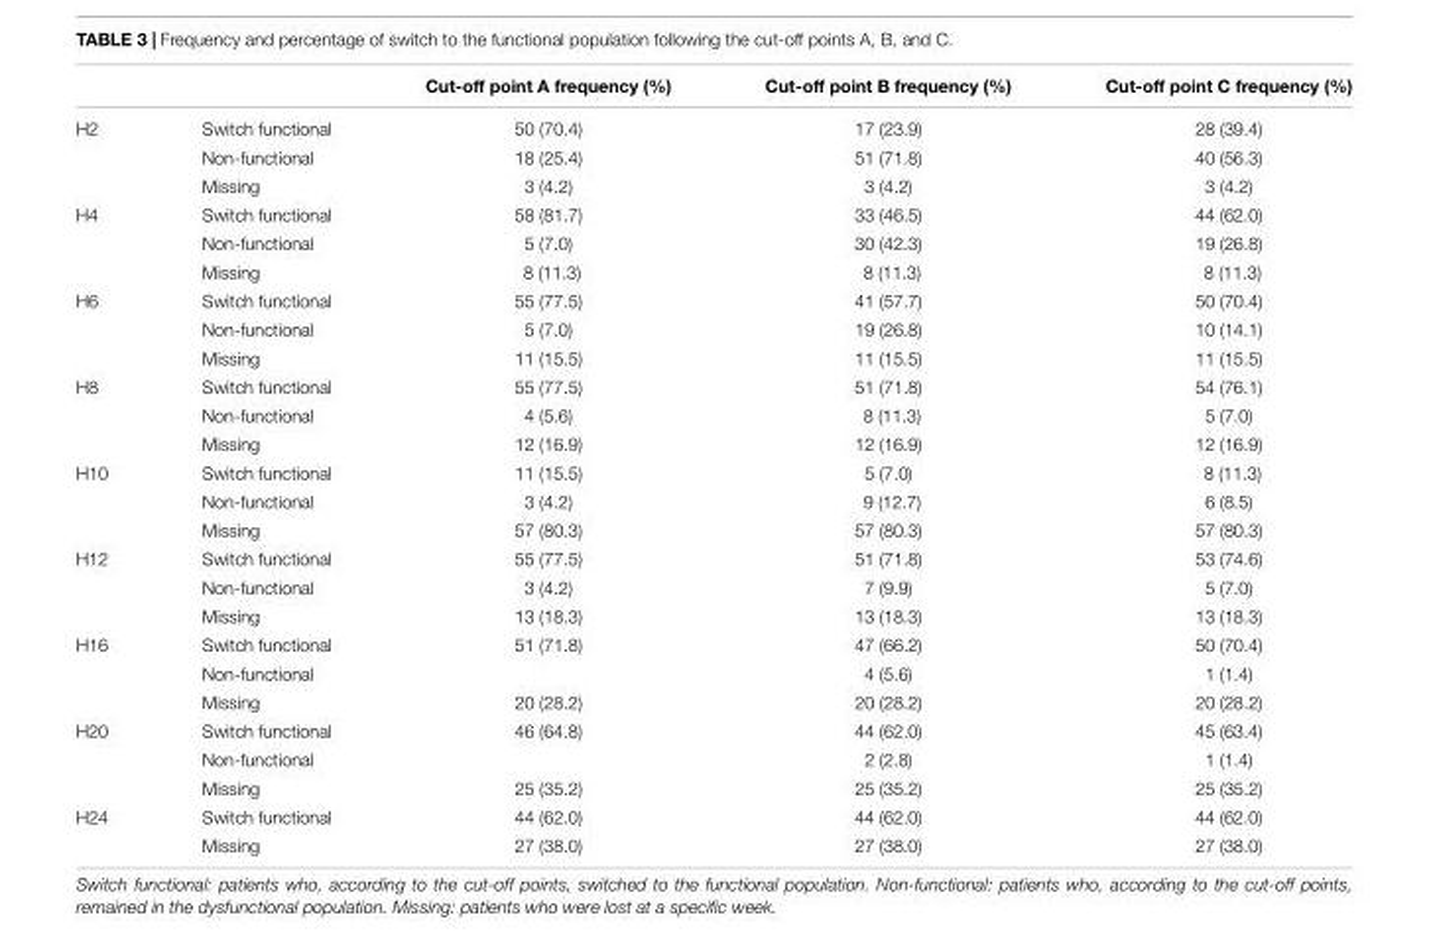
<table><thead><tr><td></td><td></td><td>Cut-off point A frequency (%)</td><td>Cut-off point B frequency (%)</td><td>Cut-off point C frequency (%)</td></tr></thead><tbody><tr><td rowspan="3">H2</td><td>Switch functional</td><td>50 (70.4)</td><td>17 (23.9)</td><td>28 (39.4)</td></tr><tr><td>Non-functional</td><td>18 (25.4)</td><td>51 (71.8)</td><td>40 (56.3)</td></tr><tr><td>Missing</td><td>3 (4.2)</td><td>3 (4.2)</td><td>3 (4.2)</td></tr><tr><td rowspan="3">H4</td><td>Switch functional</td><td>58 (81.7)</td><td>33 (46.5)</td><td>44 (62.0)</td></tr><tr><td>Non-functional</td><td>5 (7.0)</td><td>30 (42.3)</td><td>19 (26.8)</td></tr><tr><td>Missing</td><td>8 (11.3)</td><td>8 (11.3)</td><td>8 (11.3)</td></tr><tr><td rowspan="3">H6</td><td>Switch functional</td><td>55 (77.5)</td><td>41 (57.7)</td><td>50 (70.4)</td></tr><tr><td>Non-functional</td><td>5 (7.0)</td><td>19 (26.8)</td><td>10 (14.1)</td></tr><tr><td>Missing</td><td>11 (15.5)</td><td>11 (15.5)</td><td>11 (15.5)</td></tr><tr><td rowspan="3">H8</td><td>Switch functional</td><td>55 (77.5)</td><td>51 (71.8)</td><td>54 (76.1)</td></tr><tr><td>Non-functional</td><td>4 (5.6)</td><td>8 (11.3)</td><td>5 (7.0)</td></tr><tr><td>Missing</td><td>12 (16.9)</td><td>12 (16.9)</td><td>12 (16.9)</td></tr><tr><td rowspan="3">H10</td><td>Switch functional</td><td>11 (15.5)</td><td>5 (7.0)</td><td>8 (11.3)</td></tr><tr><td>Non-functional</td><td>3 (4.2)</td><td>9 (12.7)</td><td>6 (8.5)</td></tr><tr><td>Missing</td><td>57 (80.3)</td><td>57 (80.3)</td><td>57 (80.3)</td></tr><tr><td rowspan="3">H12</td><td>Switch functional</td><td>55 (77.5)</td><td>51 (71.8)</td><td>53 (74.6)</td></tr><tr><td>Non-functional</td><td>3 (4.2)</td><td>7 (9.9)</td><td>5 (7.0)</td></tr><tr><td>Missing</td><td>13 (18.3)</td><td>13 (18.3)</td><td>13 (18.3)</td></tr><tr><td rowspan="3">H16</td><td>Switch functional</td><td>51 (71.8)</td><td>47 (66.2)</td><td>50 (70.4)</td></tr><tr><td>Non-functional</td><td></td><td>4 (5.6)</td><td>1 (1.4)</td></tr><tr><td>Missing</td><td>20 (28.2)</td><td>20 (28.2)</td><td>20 (28.2)</td></tr><tr><td rowspan="3">H20</td><td>Switch functional</td><td>46 (64.8)</td><td>44 (62.0)</td><td>45 (63.4)</td></tr><tr><td>Non-functional</td><td></td><td>2 (2.8)</td><td>1 (1.4)</td></tr><tr><td>Missing</td><td>25 (35.2)</td><td>25 (35.2)</td><td>25 (35.2)</td></tr><tr><td rowspan="2">H24</td><td>Switch functional</td><td>44 (62.0)</td><td>44 (62.0)</td><td>44 (62.0)</td></tr><tr><td>Missing</td><td>27 (38.0)</td><td>27 (38.0)</td><td>27 (38.0)</td></tr></tbody></table>